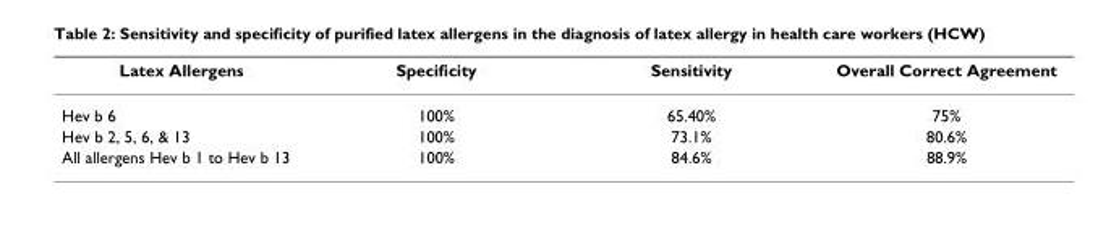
<table><thead><tr><td>Latex Allergens</td><td>Specificity</td><td>Sensitivity</td><td>Overall Correct Agreement</td></tr></thead><tbody><tr><td>Hev b 6</td><td>100%</td><td>65.40%</td><td>75%</td></tr><tr><td>Hev b 2, 5, 6, &amp; 13</td><td>100%</td><td>73.1%</td><td>80.6%</td></tr><tr><td>All allergens Hev b 1 to Hev b 13</td><td>100%</td><td>84.6%</td><td>88.9%</td></tr></tbody></table>